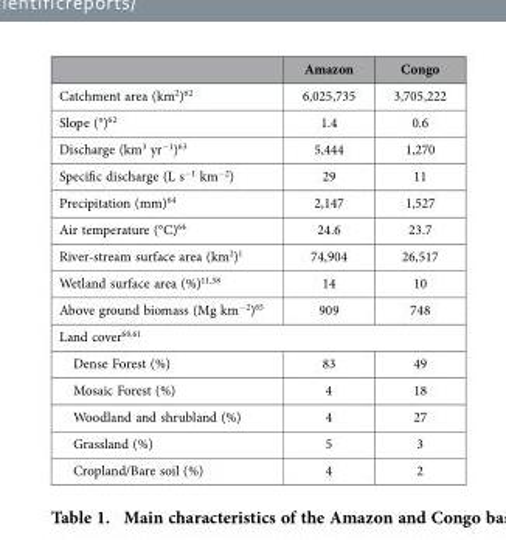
<table><thead><tr><td></td><td>Amazon</td><td>Congo</td></tr></thead><tbody><tr><td>Catchment area (km<sup>2</sup>)<sup>62</sup></td><td>6,025,735</td><td>3,705,222</td></tr><tr><td>Slope (°)<sup>62</sup></td><td>1.4</td><td>0.6</td></tr><tr><td>Discharge (km<sup>3</sup> yr<sup>−1</sup>)<sup>63</sup></td><td>5,444</td><td>1,270</td></tr><tr><td>Specific discharge (L s<sup>−1</sup> km<sup>−2</sup>)</td><td>29</td><td>11</td></tr><tr><td>Precipitation (mm)<sup>64</sup></td><td>2,147</td><td>1,527</td></tr><tr><td>Air temperature (°C)<sup>64</sup></td><td>24.6</td><td>23.7</td></tr><tr><td>River-stream surface area (km<sup>2</sup>)<sup>1</sup></td><td>74,904</td><td>26,517</td></tr><tr><td>Wetland surface area (%)<sup>11</sup>,<sup>58</sup></td><td>14</td><td>10</td></tr><tr><td>Above ground biomass (Mg km<sup>−2</sup>)<sup>65</sup></td><td>909</td><td>748</td></tr><tr><td colspan="3">Land cover<sup>60</sup>,<sup>61</sup></td></tr><tr><td>Dense Forest (%)</td><td>83</td><td>49</td></tr><tr><td>Mosaic Forest (%)</td><td>4</td><td>18</td></tr><tr><td>Woodland and shrubland (%)</td><td>4</td><td>27</td></tr><tr><td>Grassland (%)</td><td>5</td><td>3</td></tr><tr><td>Cropland/Bare soil (%)</td><td>4</td><td>2</td></tr></tbody></table>